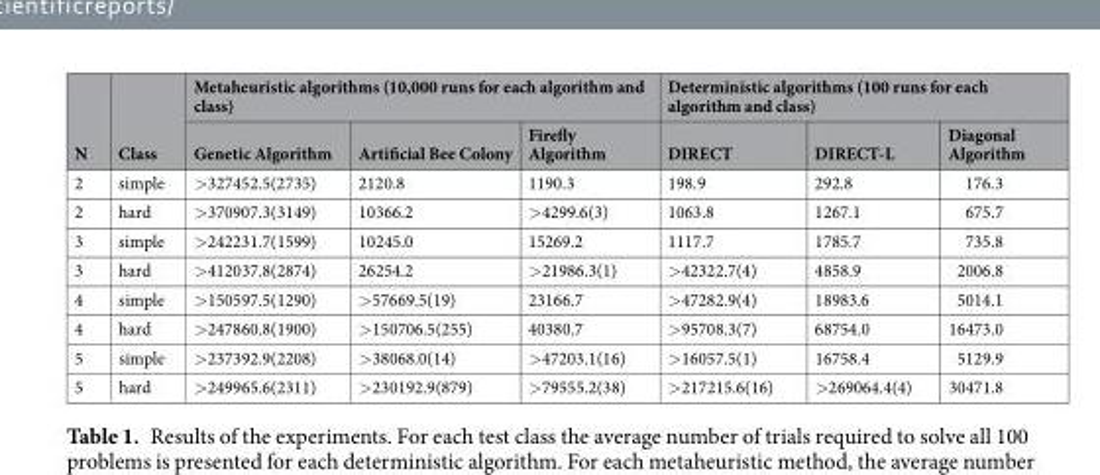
<table><thead><tr><td rowspan="2">N</td><td rowspan="2">Class</td><td colspan="3">Metaheuristic algorithms (10,000 runs for each algorithm and class)</td><td colspan="3">Deterministic algorithms (100 runs for each algorithm and class)</td></tr><tr><td>Genetic Algorithm</td><td>Artificial Bee Colony</td><td>Firefly Algorithm</td><td>DIRECT</td><td>DIRECT-L</td><td>Diagonal Algorithm</td></tr></thead><tbody><tr><td>2</td><td>simple</td><td>&gt;327452.5(2735)</td><td>2120.8</td><td>1190.3</td><td>198.9</td><td>292.8</td><td>176.3</td></tr><tr><td>2</td><td>hard</td><td>&gt;370907.3(3149)</td><td>10366.2</td><td>&gt;4299.6(3)</td><td>1063.8</td><td>1267.1</td><td>675.7</td></tr><tr><td>3</td><td>simple</td><td>&gt;242231.7(1599)</td><td>10245.0</td><td>15269.2</td><td>1117.7</td><td>1785.7</td><td>735.8</td></tr><tr><td>3</td><td>hard</td><td>&gt;412037.8(2874)</td><td>26254.2</td><td>&gt;21986.3(1)</td><td>&gt;42322.7(4)</td><td>4858.9</td><td>2006.8</td></tr><tr><td>4</td><td>simple</td><td>&gt;150597.5(1290)</td><td>&gt;57669.5(19)</td><td>23166.7</td><td>&gt;47282.9(4)</td><td>18983.6</td><td>5014.1</td></tr><tr><td>4</td><td>hard</td><td>&gt;247860.8(1900)</td><td>&gt;150706.5(255)</td><td>40380.7</td><td>&gt;95708.3(7)</td><td>68754.0</td><td>16473.0</td></tr><tr><td>5</td><td>simple</td><td>&gt;237392.9(2208)</td><td>&gt;38068.0(14)</td><td>&gt;47203.1(16)</td><td>&gt;16057.5(1)</td><td>16758.4</td><td>5129.9</td></tr><tr><td>5</td><td>hard</td><td>&gt;249965.6(2311)</td><td>&gt;230192.9(879)</td><td>&gt;79555.2(38)</td><td>&gt;217215.6(16)</td><td>&gt;269064.4(4)</td><td>30471.8</td></tr></tbody></table>